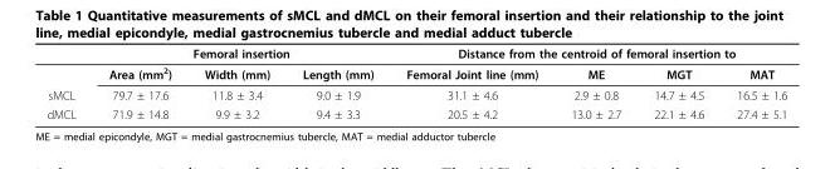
<table><thead><tr><td rowspan="2"></td><td colspan="3">Femoral insertion</td><td colspan="4">Distance from the centroid of femoral insertion to</td></tr><tr><td>Area (mm<sup>2</sup>)</td><td>Width (mm)</td><td>Length (mm)</td><td>Femoral Joint line (mm)</td><td>ME</td><td>MGT</td><td>MAT</td></tr></thead><tbody><tr><td>sMCL</td><td>79.7 ± 17.6</td><td>11.8 ± 3.4</td><td>9.0 ± 1.9</td><td>31.1 ± 4.6</td><td>2.9 ± 0.8</td><td>14.7 ± 4.5</td><td>16.5 ± 1.6</td></tr><tr><td>dMCL</td><td>71.9 ± 14.8</td><td>9.9 ± 3.2</td><td>9.4 ± 3.3</td><td>20.5 ± 4.2</td><td>13.0 ± 2.7</td><td>22.1 ± 4.6</td><td>27.4 ± 5.1</td></tr></tbody></table>